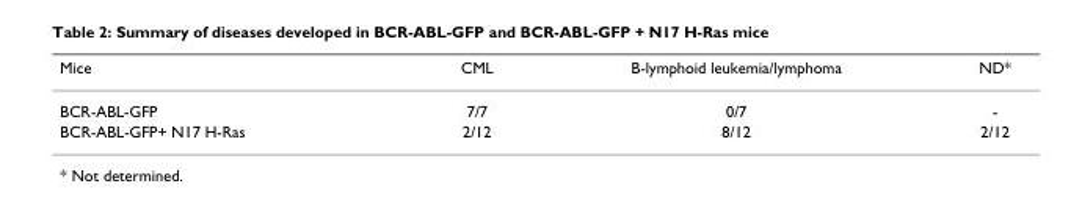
<table><thead><tr><td>Mice</td><td>CML</td><td>B-lymphoid leukemia/lymphoma</td><td>ND*</td></tr></thead><tbody><tr><td>BCR-ABL-GFP</td><td>7/7</td><td>0/7</td><td>-</td></tr><tr><td>BCR-ABL-GFP+ N17 H-Ras</td><td>2/12</td><td>8/12</td><td>2/12</td></tr></tbody></table>